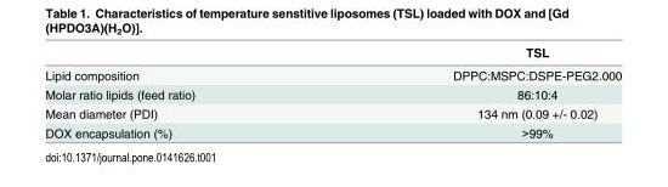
<table><thead><tr><td></td><td>TSL</td></tr></thead><tbody><tr><td>Lipid composition</td><td>DPPC:MSPC:DSPE-PEG2.000</td></tr><tr><td>Molar ratio lipids (feed ratio)</td><td>86:10:4</td></tr><tr><td>Mean diameter (PDI)</td><td>134 nm (0.09 +/- 0.02)</td></tr><tr><td>DOX encapsulation (%)</td><td>&gt;99%</td></tr></tbody></table>